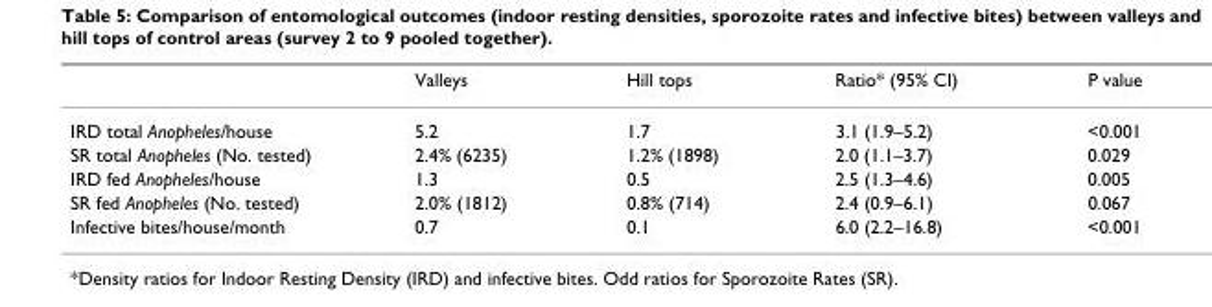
<table><thead><tr><td></td><td>Valleys</td><td>Hill tops</td><td>Ratio* (95% CI)</td><td>P value</td></tr></thead><tbody><tr><td>IRD total Anopheles/house</td><td>5.2</td><td>1.7</td><td>3.1 (1.9–5.2)</td><td>&lt;0.001</td></tr><tr><td>SR total Anopheles (No. tested)</td><td>2.4% (6235)</td><td>1.2% (1898)</td><td>2.0 (1.1–3.7)</td><td>0.029</td></tr><tr><td>IRD fed Anopheles/house</td><td>1.3</td><td>0.5</td><td>2.5 (1.3–4.6)</td><td>0.005</td></tr><tr><td>SR fed Anopheles (No. tested)</td><td>2.0% (1812)</td><td>0.8% (714)</td><td>2.4 (0.9–6.1)</td><td>0.067</td></tr><tr><td>Infective bites/house/month</td><td>0.7</td><td>0.1</td><td>6.0 (2.2–16.8)</td><td>&lt;0.001</td></tr></tbody></table>